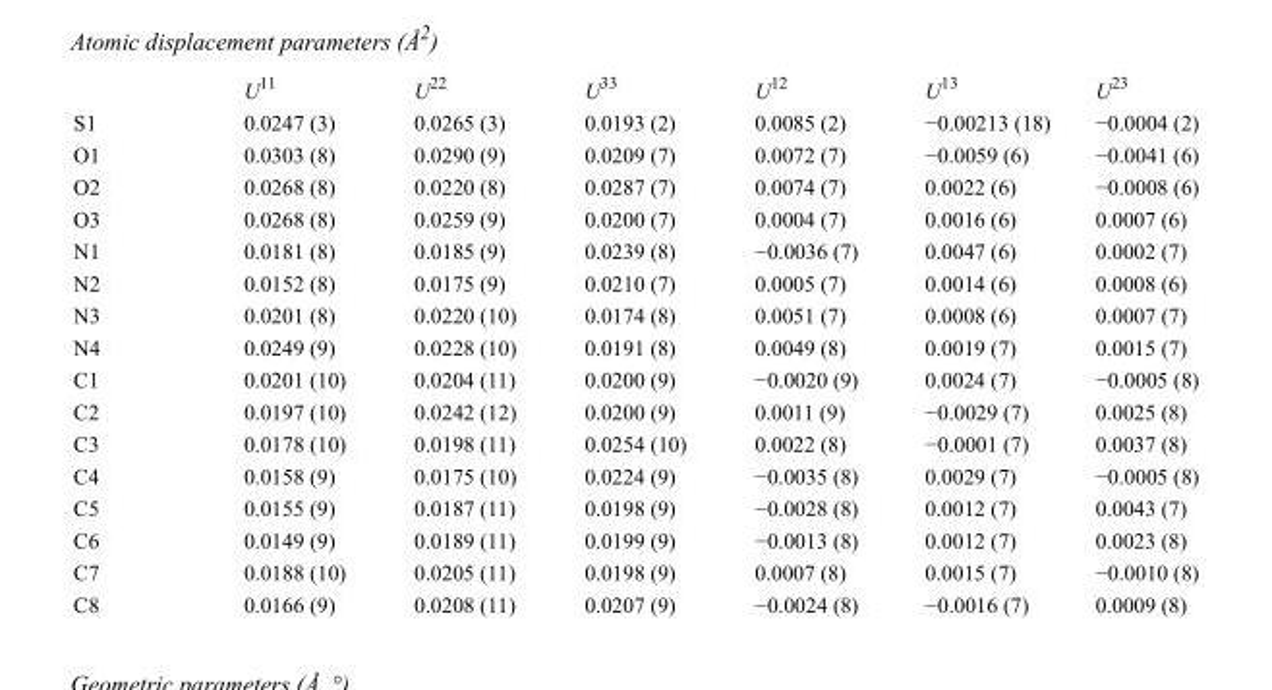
<table><thead><tr><td></td><td>U<sup>11</sup></td><td>U<sup>22</sup></td><td>U<sup>33</sup></td><td>U<sup>12</sup></td><td>U<sup>13</sup></td><td>U<sup>23</sup></td></tr></thead><tbody><tr><td>S1</td><td>0.0247 (3)</td><td>0.0265 (3)</td><td>0.0193 (2)</td><td>0.0085 (2)</td><td>−0.00213 (18)</td><td>−0.0004 (2)</td></tr><tr><td>O1</td><td>0.0303 (8)</td><td>0.0290 (9)</td><td>0.0209 (7)</td><td>0.0072 (7)</td><td>−0.0059 (6)</td><td>−0.0041 (6)</td></tr><tr><td>O2</td><td>0.0268 (8)</td><td>0.0220 (8)</td><td>0.0287 (7)</td><td>0.0074 (7)</td><td>0.0022 (6)</td><td>−0.0008 (6)</td></tr><tr><td>O3</td><td>0.0268 (8)</td><td>0.0259 (9)</td><td>0.0200 (7)</td><td>0.0004 (7)</td><td>0.0016 (6)</td><td>0.0007 (6)</td></tr><tr><td>N1</td><td>0.0181 (8)</td><td>0.0185 (9)</td><td>0.0239 (8)</td><td>−0.0036 (7)</td><td>0.0047 (6)</td><td>0.0002 (7)</td></tr><tr><td>N2</td><td>0.0152 (8)</td><td>0.0175 (9)</td><td>0.0210 (7)</td><td>0.0005 (7)</td><td>0.0014 (6)</td><td>0.0008 (6)</td></tr><tr><td>N3</td><td>0.0201 (8)</td><td>0.0220 (10)</td><td>0.0174 (8)</td><td>0.0051 (7)</td><td>0.0008 (6)</td><td>0.0007 (7)</td></tr><tr><td>N4</td><td>0.0249 (9)</td><td>0.0228 (10)</td><td>0.0191 (8)</td><td>0.0049 (8)</td><td>0.0019 (7)</td><td>0.0015 (7)</td></tr><tr><td>C1</td><td>0.0201 (10)</td><td>0.0204 (11)</td><td>0.0200 (9)</td><td>−0.0020 (9)</td><td>0.0024 (7)</td><td>−0.0005 (8)</td></tr><tr><td>C2</td><td>0.0197 (10)</td><td>0.0242 (12)</td><td>0.0200 (9)</td><td>0.0011 (9)</td><td>−0.0029 (7)</td><td>0.0025 (8)</td></tr><tr><td>C3</td><td>0.0178 (10)</td><td>0.0198 (11)</td><td>0.0254 (10)</td><td>0.0022 (8)</td><td>−0.0001 (7)</td><td>0.0037 (8)</td></tr><tr><td>C4</td><td>0.0158 (9)</td><td>0.0175 (10)</td><td>0.0224 (9)</td><td>−0.0035 (8)</td><td>0.0029 (7)</td><td>−0.0005 (8)</td></tr><tr><td>C5</td><td>0.0155 (9)</td><td>0.0187 (11)</td><td>0.0198 (9)</td><td>−0.0028 (8)</td><td>0.0012 (7)</td><td>0.0043 (7)</td></tr><tr><td>C6</td><td>0.0149 (9)</td><td>0.0189 (11)</td><td>0.0199 (9)</td><td>−0.0013 (8)</td><td>0.0012 (7)</td><td>0.0023 (8)</td></tr><tr><td>C7</td><td>0.0188 (10)</td><td>0.0205 (11)</td><td>0.0198 (9)</td><td>0.0007 (8)</td><td>0.0015 (7)</td><td>−0.0010 (8)</td></tr><tr><td>C8</td><td>0.0166 (9)</td><td>0.0208 (11)</td><td>0.0207 (9)</td><td>−0.0024 (8)</td><td>−0.0016 (7)</td><td>0.0009 (8)</td></tr></tbody></table>